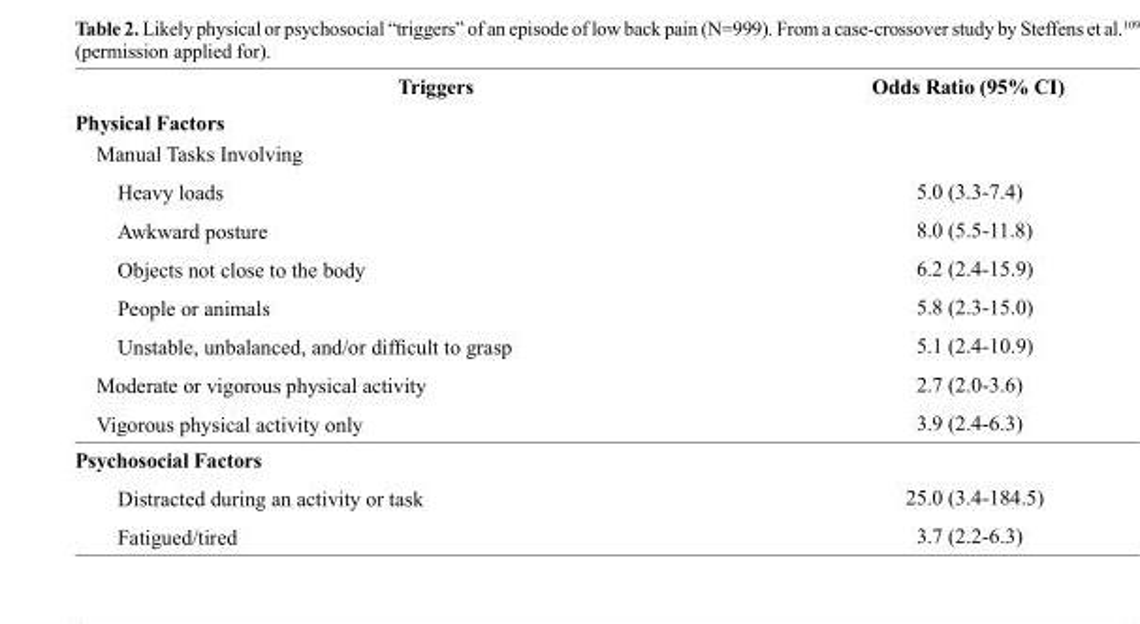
<table><thead><tr><td>Triggers</td><td>Odds Ratio (95% CI)</td></tr></thead><tbody><tr><td colspan="2">Physical Factors Manual Tasks Involving</td></tr><tr><td>Heavy loads</td><td>5.0 (3.3-7.4)</td></tr><tr><td>Awkward posture</td><td>8.0 (5.5-11.8)</td></tr><tr><td>Objects not close to the body</td><td>6.2 (2.4-15.9)</td></tr><tr><td>People or animals</td><td>5.8 (2.3-15.0)</td></tr><tr><td>Unstable, unbalanced, and/or difficult to grasp</td><td>5.1 (2.4-10.9)</td></tr><tr><td>Moderate or vigorous physical activity</td><td>2.7 (2.0-3.6)</td></tr><tr><td>Vigorous physical activity only</td><td>3.9 (2.4-6.3)</td></tr><tr><td colspan="2">Psychosocial Factors</td></tr><tr><td>Distracted during an activity or task</td><td>25.0 (3.4-184.5)</td></tr><tr><td>Fatigued/tired</td><td>3.7 (2.2-6.3)</td></tr></tbody></table>